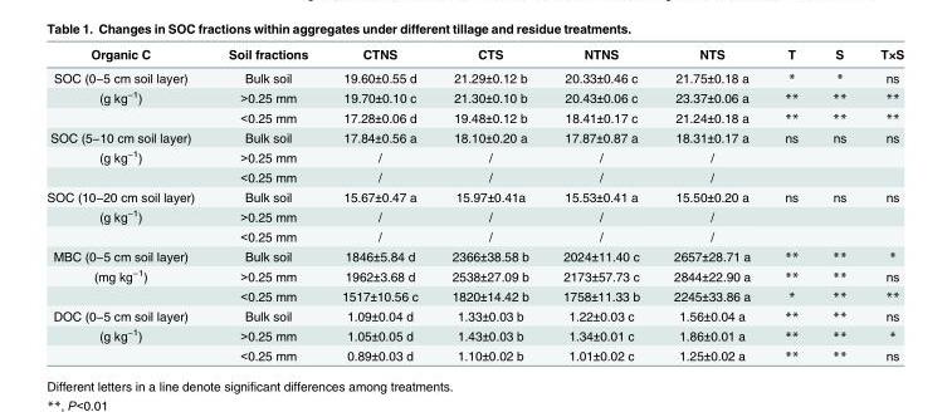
<table><thead><tr><td>Organic C</td><td>Soil fractions</td><td>CTNS</td><td>CTS</td><td>NTNS</td><td>NTS</td><td>T</td><td>S</td><td>T×S</td></tr></thead><tbody><tr><td>SOC (0−5 cm soil layer)</td><td>Bulk soil</td><td>19.60±0.55 d</td><td>21.29±0.12 b</td><td>20.33±0.46 c</td><td>21.75±0.18 a</td><td>*</td><td>*</td><td>ns</td></tr><tr><td rowspan="2">(g kg<sup>−1</sup>)</td><td>&gt;0.25 mm</td><td>19.70±0.10 c</td><td>21.30±0.10 b</td><td>20.43±0.06 c</td><td>23.37±0.06 a</td><td>**</td><td>**</td><td>**</td></tr><tr><td>&lt;0.25 mm</td><td>17.28±0.06 d</td><td>19.48±0.12 b</td><td>18.41±0.17 c</td><td>21.24±0.18 a</td><td>**</td><td>**</td><td>**</td></tr><tr><td>SOC (5−10 cm soil layer)</td><td>Bulk soil</td><td>17.84±0.56 a</td><td>18.10±0.20 a</td><td>17.87±0.87 a</td><td>18.31±0.17 a</td><td>ns</td><td>ns</td><td>ns</td></tr><tr><td rowspan="2">(g kg<sup>−1</sup>)</td><td>&gt;0.25 mm</td><td>/</td><td>/</td><td>/</td><td>/</td><td></td><td></td><td></td></tr><tr><td>&lt;0.25 mm</td><td>/</td><td>/</td><td>/</td><td>/</td><td></td><td></td><td></td></tr><tr><td>SOC (10−20 cm soil layer)</td><td>Bulk soil</td><td>15.67±0.47 a</td><td>15.97±0.41a</td><td>15.53±0.41 a</td><td>15.50±0.20 a</td><td>ns</td><td>ns</td><td>ns</td></tr><tr><td rowspan="2">(g kg<sup>−1</sup>)</td><td>&gt;0.25 mm</td><td>/</td><td>/</td><td>/</td><td>/</td><td></td><td></td><td></td></tr><tr><td>&lt;0.25 mm</td><td>/</td><td>/</td><td>/</td><td>/</td><td></td><td></td><td></td></tr><tr><td>MBC (0−5 cm soil layer)</td><td>Bulk soil</td><td>1846±5.84 d</td><td>2366±38.58 b</td><td>2024±11.40 c</td><td>2657±28.71 a</td><td>**</td><td>**</td><td>*</td></tr><tr><td rowspan="2">(mg kg<sup>−1</sup>)</td><td>&gt;0.25 mm</td><td>1962±3.68 d</td><td>2538±27.09 b</td><td>2173±57.73 c</td><td>2844±22.90 a</td><td>**</td><td>**</td><td>ns</td></tr><tr><td>&lt;0.25 mm</td><td>1517±10.56 c</td><td>1820±14.42 b</td><td>1758±11.33 b</td><td>2245±33.86 a</td><td>*</td><td>**</td><td>**</td></tr><tr><td>DOC (0−5 cm soil layer)</td><td>Bulk soil</td><td>1.09±0.04 d</td><td>1.33±0.03 b</td><td>1.22±0.03 c</td><td>1.56±0.04 a</td><td>**</td><td>**</td><td>ns</td></tr><tr><td rowspan="2">(g kg<sup>−1</sup>)</td><td>&gt;0.25 mm</td><td>1.05±0.05 d</td><td>1.43±0.03 b</td><td>1.34±0.01 c</td><td>1.86±0.01 a</td><td>**</td><td>**</td><td>*</td></tr><tr><td>&lt;0.25 mm</td><td>0.89±0.03 d</td><td>1.10±0.02 b</td><td>1.01±0.02 c</td><td>1.25±0.02 a</td><td>**</td><td>**</td><td>ns</td></tr></tbody></table>